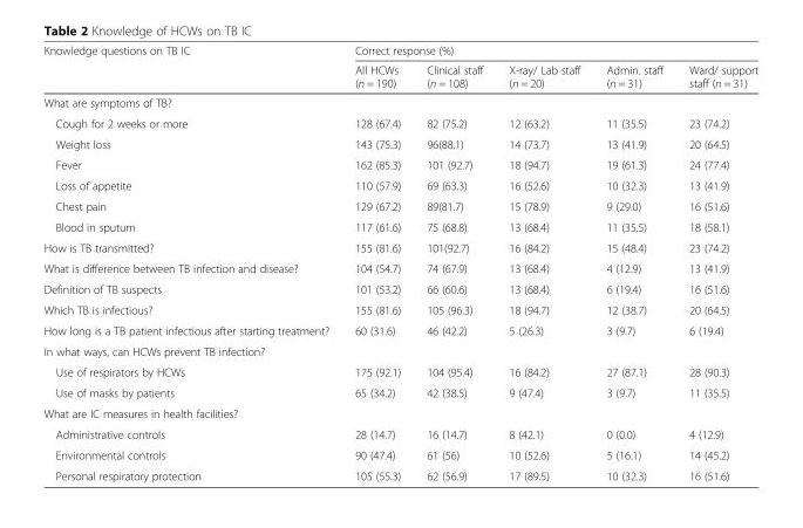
<table><thead><tr><td rowspan="2">Knowledge questions on TB IC</td><td colspan="5">Correct response (%)</td></tr><tr><td>All HCWs (n = 190)</td><td>Clinical staff (n = 108)</td><td>X-ray/ Lab staff (n = 20)</td><td>Admin. staff (n = 31)</td><td>Ward/ support staff (n = 31)</td></tr></thead><tbody><tr><td colspan="6">What are symptoms of TB?</td></tr><tr><td>Cough for 2 weeks or more</td><td>128 (67.4)</td><td>82 (75.2)</td><td>12 (63.2)</td><td>11 (35.5)</td><td>23 (74.2)</td></tr><tr><td>Weight loss</td><td>143 (75.3)</td><td>96(88.1)</td><td>14 (73.7)</td><td>13 (41.9)</td><td>20 (64.5)</td></tr><tr><td>Fever</td><td>162 (85.3)</td><td>101 (92.7)</td><td>18 (94.7)</td><td>19 (61.3)</td><td>24 (77.4)</td></tr><tr><td>Loss of appetite</td><td>110 (57.9)</td><td>69 (63.3)</td><td>16 (52.6)</td><td>10 (32.3)</td><td>13 (41.9)</td></tr><tr><td>Chest pain</td><td>129 (67.2)</td><td>89(81.7)</td><td>15 (78.9)</td><td>9 (29.0)</td><td>16 (51.6)</td></tr><tr><td>Blood in sputum</td><td>117 (61.6)</td><td>75 (68.8)</td><td>13 (68.4)</td><td>11 (35.5)</td><td>18 (58.1)</td></tr><tr><td>How is TB transmitted?</td><td>155 (81.6)</td><td>101(92.7)</td><td>16 (84.2)</td><td>15 (48.4)</td><td>23 (74.2)</td></tr><tr><td>What is difference between TB infection and disease?</td><td>104 (54.7)</td><td>74 (67.9)</td><td>13 (68.4)</td><td>4 (12.9)</td><td>13 (41.9)</td></tr><tr><td>Definition of TB suspects</td><td>101 (53.2)</td><td>66 (60.6)</td><td>13 (68.4)</td><td>6 (19.4)</td><td>16 (51.6)</td></tr><tr><td>Which TB is infectious?</td><td>155 (81.6)</td><td>105 (96.3)</td><td>18 (94.7)</td><td>12 (38.7)</td><td>20 (64.5)</td></tr><tr><td>How long is a TB patient infectious after starting treatment?</td><td>60 (31.6)</td><td>46 (42.2)</td><td>5 (26.3)</td><td>3 (9.7)</td><td>6 (19.4)</td></tr><tr><td colspan="6">In what ways, can HCWs prevent TB infection?</td></tr><tr><td>Use of respirators by HCWs</td><td>175 (92.1)</td><td>104 (95.4)</td><td>16 (84.2)</td><td>27 (87.1)</td><td>28 (90.3)</td></tr><tr><td>Use of masks by patients</td><td>65 (34.2)</td><td>42 (38.5)</td><td>9 (47.4)</td><td>3 (9.7)</td><td>11 (35.5)</td></tr><tr><td colspan="6">What are IC measures in health facilities?</td></tr><tr><td>Administrative controls</td><td>28 (14.7)</td><td>16 (14.7)</td><td>8 (42.1)</td><td>0 (0.0)</td><td>4 (12.9)</td></tr><tr><td>Environmental controls</td><td>90 (47.4)</td><td>61 (56)</td><td>10 (52.6)</td><td>5 (16.1)</td><td>14 (45.2)</td></tr><tr><td>Personal respiratory protection</td><td>105 (55.3)</td><td>62 (56.9)</td><td>17 (89.5)</td><td>10 (32.3)</td><td>16 (51.6)</td></tr></tbody></table>